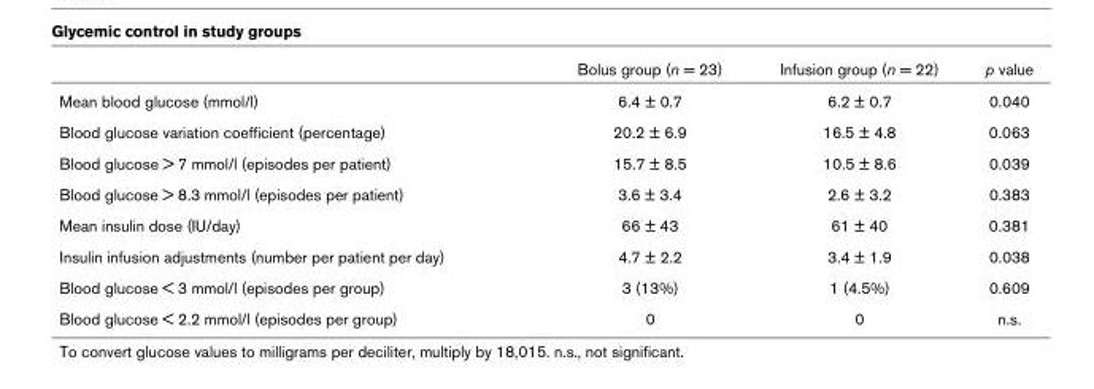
<table><thead><tr><td></td><td>Bolus group (n = 23)</td><td>Infusion group (n = 22)</td><td>p value</td></tr></thead><tbody><tr><td>Mean blood glucose (mmol/l)</td><td>6.4 ± 0.7</td><td>6.2 ± 0.7</td><td>0.040</td></tr><tr><td>Blood glucose variation coefficient (percentage)</td><td>20.2 ± 6.9</td><td>16.5 ± 4.8</td><td>0.063</td></tr><tr><td>Blood glucose &gt; 7 mmol/l (episodes per patient)</td><td>15.7 ± 8.5</td><td>10.5 ± 8.6</td><td>0.039</td></tr><tr><td>Blood glucose &gt; 8.3 mmol/l (episodes per patient)</td><td>3.6 ± 3.4</td><td>2.6 ± 3.2</td><td>0.383</td></tr><tr><td>Mean insulin dose (IU/day)</td><td>66 ± 43</td><td>61 ± 40</td><td>0.381</td></tr><tr><td>Insulin infusion adjustments (number per patient per day)</td><td>4.7 ± 2.2</td><td>3.4 ± 1.9</td><td>0.038</td></tr><tr><td>Blood glucose &lt; 3 mmol/l (episodes per group)</td><td>3 (13%)</td><td>1 (4.5%)</td><td>0.609</td></tr><tr><td>Blood glucose &lt; 2.2 mmol/l (episodes per group)</td><td>0</td><td>0</td><td>n.s.</td></tr></tbody></table>